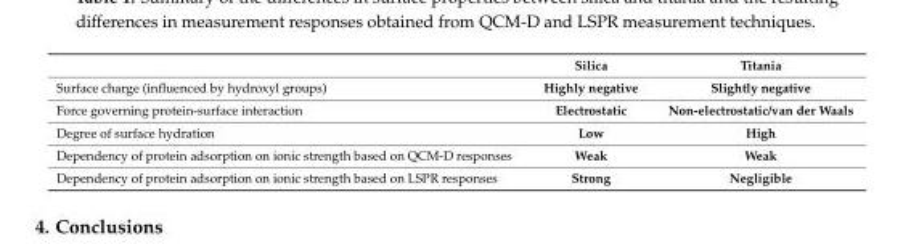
<table><thead><tr><td></td><td>Silica</td><td>Titania</td></tr></thead><tbody><tr><td>Surface charge (influenced by hydroxyl groups)</td><td>Highly negative</td><td>Slightly negative</td></tr><tr><td>Force governing protein-surface interaction</td><td>Electrostatic</td><td>Non-electrostatic/van der Waals</td></tr><tr><td>Degree of surface hydration</td><td>Low</td><td>High</td></tr><tr><td>Dependency of protein adsorption on ionic strength based on QCM-D responses</td><td>Weak</td><td>Weak</td></tr><tr><td>Dependency of protein adsorption on ionic strength based on LSPR responses</td><td>Strong</td><td>Negligible</td></tr></tbody></table>